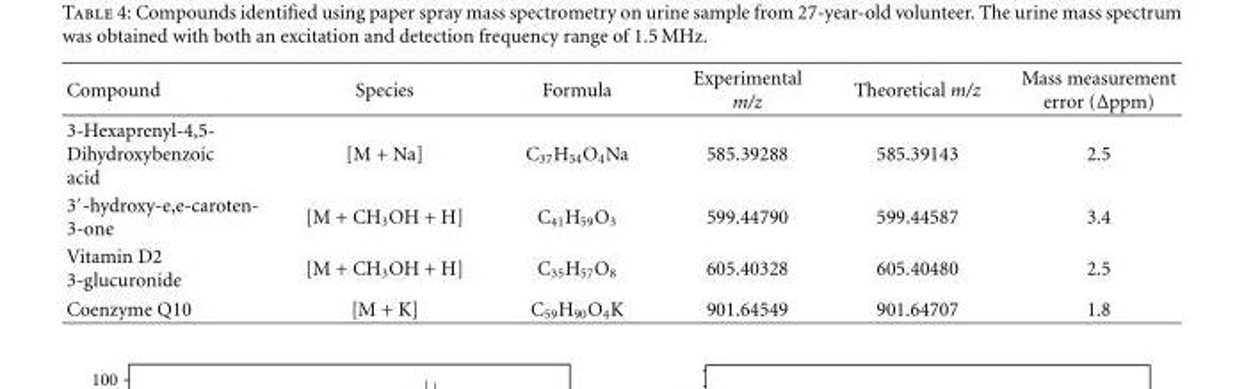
<table><thead><tr><td>Compound</td><td>Species</td><td>Formula</td><td>Experimental m/z</td><td>Theoretical m/z</td><td>Mass measurement error (Δppm)</td></tr></thead><tbody><tr><td>3-Hexaprenyl-4,5- Dihydroxybenzoic acid</td><td>[M + Na]</td><td>C<sub>37</sub>H<sub>54</sub>O<sub>4</sub>Na</td><td>585.39288</td><td>585.39143</td><td>2.5</td></tr><tr><td>3′-hydroxy-e,e-caroten- 3-one</td><td>[M + CH<sub>3</sub>OH + H]</td><td>C<sub>41</sub>H<sub>59</sub>O<sub>3</sub></td><td>599.44790</td><td>599.44587</td><td>3.4</td></tr><tr><td>Vitamin D2 3-glucuronide</td><td>[M + CH<sub>3</sub>OH + H]</td><td>C<sub>35</sub>H<sub>57</sub>O<sub>8</sub></td><td>605.40328</td><td>605.40480</td><td>2.5</td></tr><tr><td>Coenzyme Q10</td><td>[M + K]</td><td>C<sub>59</sub>H<sub>90</sub>O<sub>4</sub>K</td><td>901.64549</td><td>901.64707</td><td>1.8</td></tr></tbody></table>